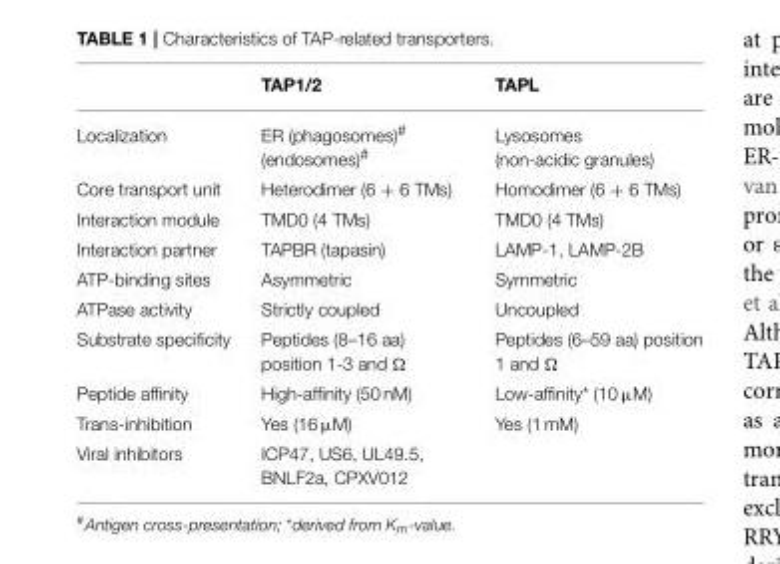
<table><thead><tr><td></td><td>TAP1/2</td><td>TAPL</td></tr></thead><tbody><tr><td>Localization</td><td>ER (phagosomes)<sup>#</sup> (endosomes)<sup>#</sup></td><td>Lysosomes (non-acidic granules)</td></tr><tr><td>Core transport unit</td><td>Heterodimer (6 + 6 TMs)</td><td>Homodimer (6 + 6 TMs)</td></tr><tr><td>Interaction module</td><td>TMD0 (4 TMs)</td><td>TMD0 (4 TMs)</td></tr><tr><td>Interaction partner</td><td>TAPBR (tapasin)</td><td>LAMP-1, LAMP-2B</td></tr><tr><td>ATP-binding sites</td><td>Asymmetric</td><td>Symmetric</td></tr><tr><td>ATPase activity</td><td>Strictly coupled</td><td>Uncoupled</td></tr><tr><td>Substrate specificity</td><td>Peptides (8–16 aa) position 1-3 and Ω</td><td>Peptides (6–59 aa) position 1 and Ω</td></tr><tr><td>Peptide affinity</td><td>High-affinity (50 nM)</td><td>Low-affinity* (10 µM)</td></tr><tr><td>Trans-inhibition</td><td>Yes (16 µM)</td><td>Yes (1 mM)</td></tr><tr><td>Viral inhibitors</td><td>ICP47, US6, UL49.5, BNLF2a, CPXV012</td><td></td></tr></tbody></table>